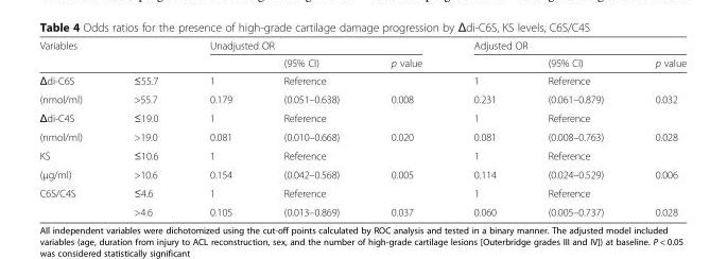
<table><thead><tr><td rowspan="2">Variables</td><td rowspan="2"></td><td colspan="3">Unadjusted OR</td><td colspan="3">Adjusted OR</td></tr><tr><td></td><td>(95% CI)</td><td>p value</td><td></td><td>(95% CI)</td><td>p value</td></tr></thead><tbody><tr><td>Δdi-C6S</td><td>≤55.7</td><td>1</td><td>Reference</td><td></td><td>1</td><td>Reference</td><td></td></tr><tr><td>(nmol/ml)</td><td>&gt;55.7</td><td>0.179</td><td>(0.051–0.638)</td><td>0.008</td><td>0.231</td><td>(0.061–0.879)</td><td>0.032</td></tr><tr><td>Δdi-C4S</td><td>≤19.0</td><td>1</td><td>Reference</td><td></td><td>1</td><td>Reference</td><td></td></tr><tr><td>(nmol/ml)</td><td>&gt;19.0</td><td>0.081</td><td>(0.010–0.668)</td><td>0.020</td><td>0.081</td><td>(0.008–0.763)</td><td>0.028</td></tr><tr><td>KS</td><td>≤10.6</td><td>1</td><td>Reference</td><td></td><td>1</td><td>Reference</td><td></td></tr><tr><td>(μg/ml)</td><td>&gt;10.6</td><td>0.154</td><td>(0.042–0.568)</td><td>0.005</td><td>0.114</td><td>(0.024–0.529)</td><td>0.006</td></tr><tr><td rowspan="2">C6S/C4S</td><td>≤4.6</td><td>1</td><td>Reference</td><td></td><td>1</td><td>Reference</td><td></td></tr><tr><td>&gt;4.6</td><td>0.105</td><td>(0.013–0.869)</td><td>0.037</td><td>0.060</td><td>(0.005–0.737)</td><td>0.028</td></tr></tbody></table>